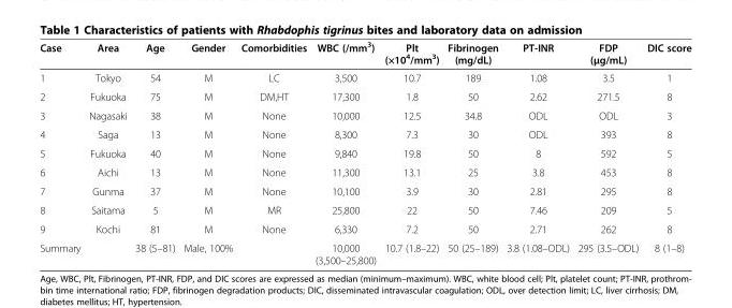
<table><thead><tr><td>Case</td><td>Area</td><td>Age</td><td>Gender</td><td>Comorbidities</td><td>WBC (/mm<sup>3</sup>)</td><td>Plt (×10<sup>4</sup>/mm<sup>3</sup>)</td><td>Fibrinogen (mg/dL)</td><td>PT-INR</td><td>FDP (μg/mL)</td><td>DIC score</td></tr></thead><tbody><tr><td>1</td><td>Tokyo</td><td>54</td><td>M</td><td>LC</td><td>3,500</td><td>10.7</td><td>189</td><td>1.08</td><td>3.5</td><td>1</td></tr><tr><td>2</td><td>Fukuoka</td><td>75</td><td>M</td><td>DM,HT</td><td>17,300</td><td>1.8</td><td>50</td><td>2.62</td><td>271.5</td><td>8</td></tr><tr><td>3</td><td>Nagasaki</td><td>38</td><td>M</td><td>None</td><td>10,000</td><td>12.5</td><td>34.8</td><td>ODL</td><td>ODL</td><td>3</td></tr><tr><td>4</td><td>Saga</td><td>13</td><td>M</td><td>None</td><td>8,300</td><td>7.3</td><td>30</td><td>ODL</td><td>393</td><td>8</td></tr><tr><td>5</td><td>Fukuoka</td><td>40</td><td>M</td><td>None</td><td>9,840</td><td>19.8</td><td>50</td><td>8</td><td>592</td><td>5</td></tr><tr><td>6</td><td>Aichi</td><td>13</td><td>M</td><td>None</td><td>11,300</td><td>13.1</td><td>25</td><td>3.8</td><td>453</td><td>8</td></tr><tr><td>7</td><td>Gunma</td><td>37</td><td>M</td><td>None</td><td>10,100</td><td>3.9</td><td>30</td><td>2.81</td><td>295</td><td>8</td></tr><tr><td>8</td><td>Saitama</td><td>5</td><td>M</td><td>MR</td><td>25,800</td><td>22</td><td>50</td><td>7.46</td><td>209</td><td>5</td></tr><tr><td>9</td><td>Kochi</td><td>81</td><td>M</td><td>None</td><td>6,330</td><td>7.2</td><td>50</td><td>2.71</td><td>262</td><td>8</td></tr><tr><td>Summary</td><td></td><td>38 (5–81)</td><td>Male, 100%</td><td></td><td>10,000 (3,500–25,800)</td><td>10.7 (1.8–22)</td><td>50 (25–189)</td><td>3.8 (1.08–ODL)</td><td>295 (3.5–ODL)</td><td>8 (1–8)</td></tr></tbody></table>